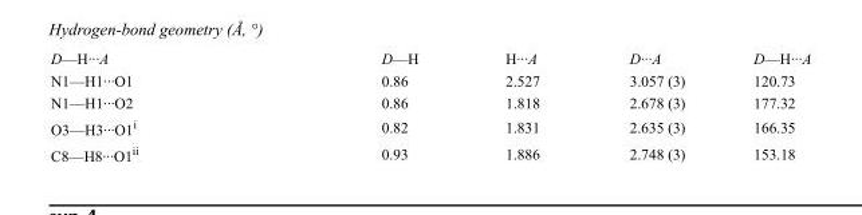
<table><tbody><tr><td>D—H···A</td><td>D—H</td><td>H···A</td><td>D···A</td><td>D—H···A</td></tr><tr><td>N1—H1···O1</td><td>0.86</td><td>2.527</td><td>3.057 (3)</td><td>120.73</td></tr><tr><td>N1—H1···O2</td><td>0.86</td><td>1.818</td><td>2.678 (3)</td><td>177.32</td></tr><tr><td>O3—H3···O1<sup>i</sup></td><td>0.82</td><td>1.831</td><td>2.635 (3)</td><td>166.35</td></tr><tr><td>C8—H8···O1<sup>ii</sup></td><td>0.93</td><td>1.886</td><td>2.748 (3)</td><td>153.18</td></tr></tbody></table>